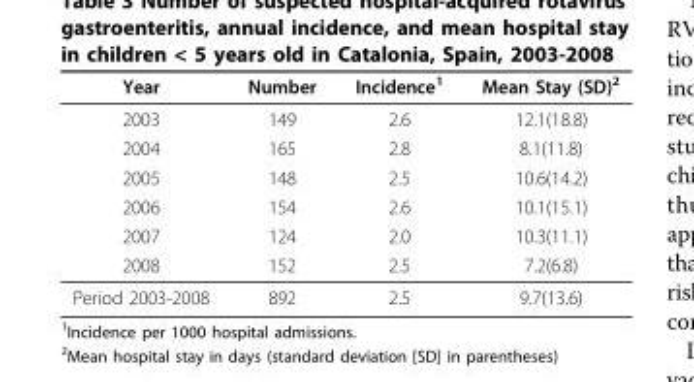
<table><thead><tr><td>Year</td><td>Number</td><td>Incidence<sup>1</sup></td><td>Mean Stay (SD)<sup>2</sup></td></tr></thead><tbody><tr><td>2003</td><td>149</td><td>2.6</td><td>12.1(18.8)</td></tr><tr><td>2004</td><td>165</td><td>2.8</td><td>8.1(11.8)</td></tr><tr><td>2005</td><td>148</td><td>2.5</td><td>10.6(14.2)</td></tr><tr><td>2006</td><td>154</td><td>2.6</td><td>10.1(15.1)</td></tr><tr><td>2007</td><td>124</td><td>2.0</td><td>10.3(11.1)</td></tr><tr><td>2008</td><td>152</td><td>2.5</td><td>7.2(6.8)</td></tr><tr><td>Period 2003-2008</td><td>892</td><td>2.5</td><td>9.7(13.6)</td></tr></tbody></table>